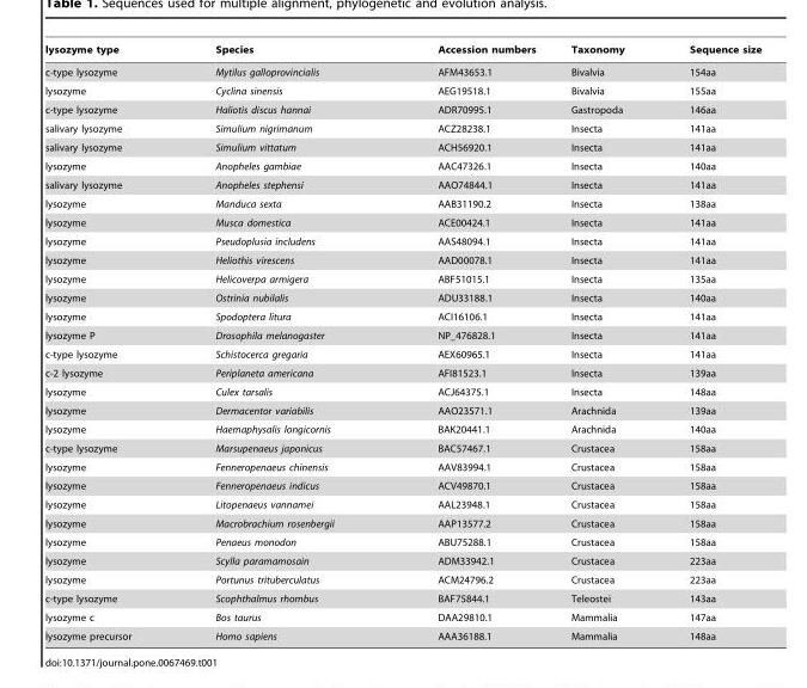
<table><thead><tr><td>lysozyme type</td><td>Species</td><td>Accession numbers</td><td>Taxonomy</td><td>Sequence size</td></tr></thead><tbody><tr><td>c-type lysozyme</td><td>Mytilus galloprovincialis</td><td>AFM43653.1</td><td>Bivalvia</td><td>154aa</td></tr><tr><td>lysozyme</td><td>Cyclina sinensis</td><td>AEG19518.1</td><td>Bivalvia</td><td>155aa</td></tr><tr><td>c-type lysozyme</td><td>Haliotis discus hannai</td><td>ADR70995.1</td><td>Gastropoda</td><td>146aa</td></tr><tr><td>salivary lysozyme</td><td>Simulium nigrimanum</td><td>ACZ28238.1</td><td>Insecta</td><td>141aa</td></tr><tr><td>salivary lysozyme</td><td>Simulium vittatum</td><td>ACH56920.1</td><td>Insecta</td><td>141aa</td></tr><tr><td>lysozyme</td><td>Anopheles gambiae</td><td>AAC47326.1</td><td>Insecta</td><td>140aa</td></tr><tr><td>salivary lysozyme</td><td>Anopheles stephensi</td><td>AAO74844.1</td><td>Insecta</td><td>141aa</td></tr><tr><td>lysozyme</td><td>Manduca sexta</td><td>AAB31190.2</td><td>Insecta</td><td>138aa</td></tr><tr><td>lysozyme</td><td>Musca domestica</td><td>ACE00424.1</td><td>Insecta</td><td>141aa</td></tr><tr><td>lysozyme</td><td>Pseudoplusia includens</td><td>AAS48094.1</td><td>Insecta</td><td>141aa</td></tr><tr><td>lysozyme</td><td>Heliothis virescens</td><td>AAD00078.1</td><td>Insecta</td><td>141aa</td></tr><tr><td>lysozyme</td><td>Helicoverpa armigera</td><td>ABF51015.1</td><td>Insecta</td><td>135aa</td></tr><tr><td>lysozyme</td><td>Ostrinia nubilalis</td><td>ADU33188.1</td><td>Insecta</td><td>140aa</td></tr><tr><td>lysozyme</td><td>Spodoptera litura</td><td>ACI16106.1</td><td>Insecta</td><td>141aa</td></tr><tr><td>lysozyme P</td><td>Drosophila melanogaster</td><td>NP_476828.1</td><td>Insecta</td><td>141aa</td></tr><tr><td>c-type lysozyme</td><td>Schistocerca gregaria</td><td>AEX60965.1</td><td>Insecta</td><td>141aa</td></tr><tr><td>c-2 lysozyme</td><td>Periplaneta americana</td><td>AFI81523.1</td><td>Insecta</td><td>139aa</td></tr><tr><td>lysozyme</td><td>Culex tarsalis</td><td>ACJ64375.1</td><td>Insecta</td><td>148aa</td></tr><tr><td>lysozyme</td><td>Dermacentor variabilis</td><td>AAO23571.1</td><td>Arachnida</td><td>139aa</td></tr><tr><td>lysozyme</td><td>Haemaphysalis longicornis</td><td>BAK20441.1</td><td>Arachnida</td><td>140aa</td></tr><tr><td>c-type lysozyme</td><td>Marsupenaeus japonicus</td><td>BAC57467.1</td><td>Crustacea</td><td>158aa</td></tr><tr><td>lysozyme</td><td>Fenneropenaeus chinensis</td><td>AAV83994.1</td><td>Crustacea</td><td>158aa</td></tr><tr><td>lysozyme</td><td>Fenneropenaeus indicus</td><td>ACV49870.1</td><td>Crustacea</td><td>158aa</td></tr><tr><td>lysozyme</td><td>Litopenaeus vannamei</td><td>AAL23948.1</td><td>Crustacea</td><td>158aa</td></tr><tr><td>lysozyme</td><td>Macrobrachium rosenbergii</td><td>AAP13577.2</td><td>Crustacea</td><td>158aa</td></tr><tr><td>lysozyme</td><td>Penaeus monodon</td><td>ABU75288.1</td><td>Crustacea</td><td>158aa</td></tr><tr><td>lysozyme</td><td>Scylla paramamosain</td><td>ADM33942.1</td><td>Crustacea</td><td>223aa</td></tr><tr><td>lysozyme</td><td>Portunus trituberculatus</td><td>ACM24796.2</td><td>Crustacea</td><td>223aa</td></tr><tr><td>c-type lysozyme</td><td>Scophthalmus rhombus</td><td>BAF75844.1</td><td>Teleostei</td><td>143aa</td></tr><tr><td>lysozyme c</td><td>Bos taurus</td><td>DAA29810.1</td><td>Mammalia</td><td>147aa</td></tr><tr><td>lysozyme precursor</td><td>Homo sapiens</td><td>AAA36188.1</td><td>Mammalia</td><td>148aa</td></tr></tbody></table>